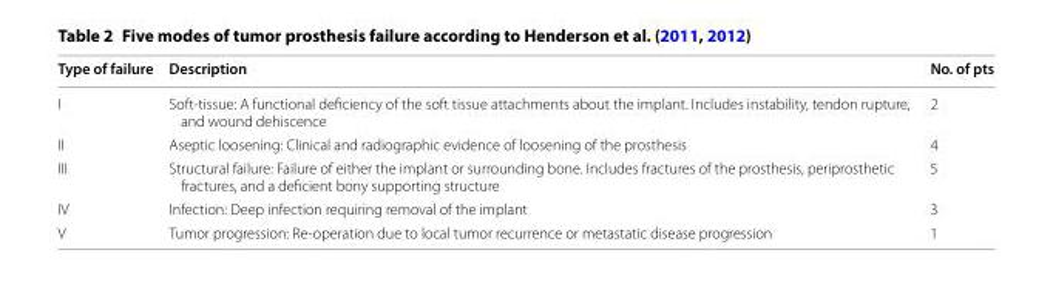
<table><thead><tr><td>Type of failure</td><td>Description</td><td>No. of pts</td></tr></thead><tbody><tr><td>I</td><td>Soft-tissue: A functional deficiency of the soft tissue attachments about the implant. Includes instability, tendon rupture, and wound dehiscence</td><td>2</td></tr><tr><td>II</td><td>Aseptic loosening: Clinical and radiographic evidence of loosening of the prosthesis</td><td>4</td></tr><tr><td>III</td><td>Structural failure: Failure of either the implant or surrounding bone. Includes fractures of the prosthesis, periprosthetic fractures, and a deficient bony supporting structure</td><td>5</td></tr><tr><td>IV</td><td>Infection: Deep infection requiring removal of the implant</td><td>3</td></tr><tr><td>V</td><td>Tumor progression: Re-operation due to local tumor recurrence or metastatic disease progression</td><td>1</td></tr></tbody></table>